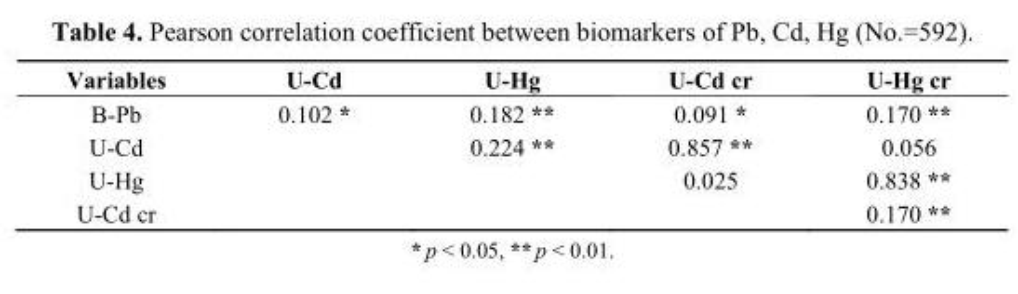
<table><thead><tr><td>Variables</td><td>U-Cd</td><td>U-Hg</td><td>U-Cd cr</td><td>U-Hg cr</td></tr></thead><tbody><tr><td>B-Pb</td><td>0.102 *</td><td>0.182 **</td><td>0.091 *</td><td>0.170 **</td></tr><tr><td>U-Cd</td><td></td><td>0.224 **</td><td>0.857 **</td><td>0.056</td></tr><tr><td>U-Hg</td><td></td><td></td><td>0.025</td><td>0.838 **</td></tr><tr><td>U-Cd cr</td><td></td><td></td><td></td><td>0.170 **</td></tr></tbody></table>